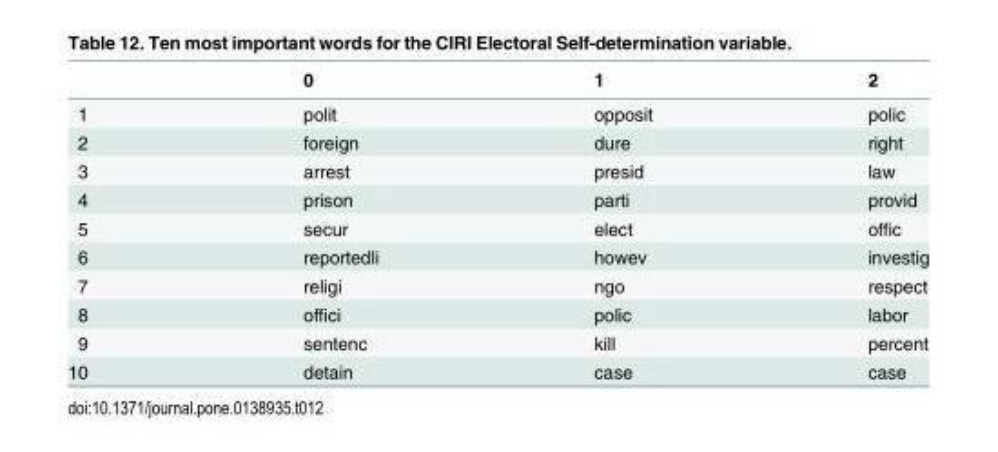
<table><thead><tr><td></td><td>0</td><td>1</td><td>2</td></tr></thead><tbody><tr><td>1</td><td>polit</td><td>opposit</td><td>polic</td></tr><tr><td>2</td><td>foreign</td><td>dure</td><td>right</td></tr><tr><td>3</td><td>arrest</td><td>presid</td><td>law</td></tr><tr><td>4</td><td>prison</td><td>parti</td><td>provid</td></tr><tr><td>5</td><td>secur</td><td>elect</td><td>offic</td></tr><tr><td>6</td><td>reportedli</td><td>howev</td><td>investig</td></tr><tr><td>7</td><td>religi</td><td>ngo</td><td>respect</td></tr><tr><td>8</td><td>offici</td><td>polic</td><td>labor</td></tr><tr><td>9</td><td>sentenc</td><td>kill</td><td>percent</td></tr><tr><td>10</td><td>detain</td><td>case</td><td>case</td></tr></tbody></table>